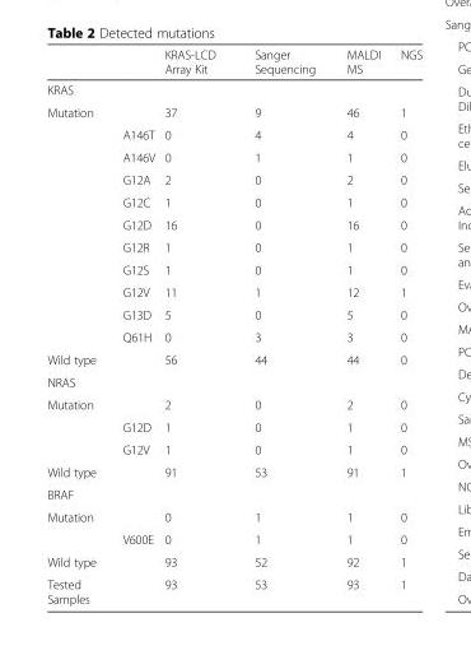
<table><thead><tr><td></td><td></td><td>KRAS-LCD Array Kit</td><td>Sanger Sequencing</td><td>MALDI MS</td><td>NGS</td></tr></thead><tbody><tr><td colspan="6">KRAS</td></tr><tr><td rowspan="11">Mutation</td><td></td><td>37</td><td>9</td><td>46</td><td>1</td></tr><tr><td>A146T</td><td>0</td><td>4</td><td>4</td><td>0</td></tr><tr><td>A146V</td><td>0</td><td>1</td><td>1</td><td>0</td></tr><tr><td>G12A</td><td>2</td><td>0</td><td>2</td><td>0</td></tr><tr><td>G12C</td><td>1</td><td>0</td><td>1</td><td>0</td></tr><tr><td>G12D</td><td>16</td><td>0</td><td>16</td><td>0</td></tr><tr><td>G12R</td><td>1</td><td>0</td><td>1</td><td>0</td></tr><tr><td>G12S</td><td>1</td><td>0</td><td>1</td><td>0</td></tr><tr><td>G12V</td><td>11</td><td>1</td><td>12</td><td>1</td></tr><tr><td>G13D</td><td>5</td><td>0</td><td>5</td><td>0</td></tr><tr><td>Q61H</td><td>0</td><td>3</td><td>3</td><td>0</td></tr><tr><td>Wild type</td><td></td><td>56</td><td>44</td><td>44</td><td>0</td></tr><tr><td colspan="6">NRAS</td></tr><tr><td rowspan="3">Mutation</td><td></td><td>2</td><td>0</td><td>2</td><td>0</td></tr><tr><td>G12D</td><td>1</td><td>0</td><td>1</td><td>0</td></tr><tr><td>G12V</td><td>1</td><td>0</td><td>1</td><td>0</td></tr><tr><td>Wild type</td><td></td><td>91</td><td>53</td><td>91</td><td>1</td></tr><tr><td colspan="6">BRAF</td></tr><tr><td rowspan="2">Mutation</td><td></td><td>0</td><td>1</td><td>1</td><td>0</td></tr><tr><td>V600E</td><td>0</td><td>1</td><td>1</td><td>0</td></tr><tr><td>Wild type</td><td></td><td>93</td><td>52</td><td>92</td><td>1</td></tr><tr><td>Tested Samples</td><td></td><td>93</td><td>53</td><td>93</td><td>1</td></tr></tbody></table>